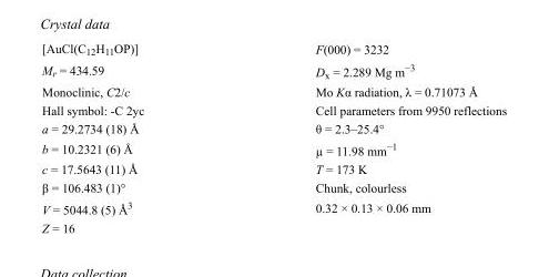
<table><tbody><tr><td>[AuCl(C<sub>12</sub>H<sub>11</sub>OP)]</td><td>F(000) = 3232</td></tr><tr><td>M<sub>r</sub> = 434.59</td><td>D<sub>x</sub> = 2.289 Mg m<sup>−3</sup></td></tr><tr><td>Monoclinic, C2/c</td><td>Mo Kα radiation, λ = 0.71073 Å</td></tr><tr><td>Hall symbol: -C 2yc</td><td>Cell parameters from 9950 reflections</td></tr><tr><td>a = 29.2734 (18) Å</td><td>θ = 2.3–25.4°</td></tr><tr><td>b = 10.2321 (6) Å</td><td>µ = 11.98 mm<sup>−1</sup></td></tr><tr><td>c = 17.5643 (11) Å</td><td>T = 173 K</td></tr><tr><td>β = 106.483 (1)°</td><td>Chunk, colourless</td></tr><tr><td>V = 5044.8 (5) Å<sup>3</sup></td><td>0.32 × 0.13 × 0.06 mm</td></tr><tr><td>Z = 16</td><td></td></tr></tbody></table>